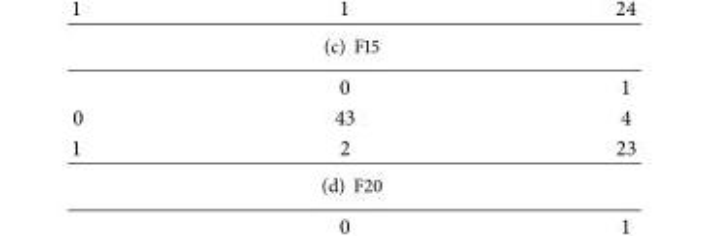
<table><thead><tr><td></td><td>0</td><td>1</td></tr></thead><tbody><tr><td>0</td><td>43</td><td>4</td></tr><tr><td>1</td><td>2</td><td>23</td></tr></tbody></table>